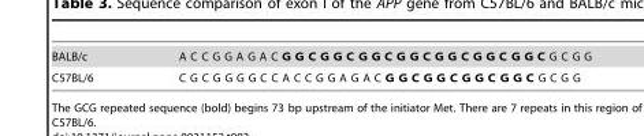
<table><tbody><tr><td>BALB/c</td><td>A C C G G A G A C G G C G G C G G C G G C G G C G G C G G C G C G G</td></tr><tr><td>C57BL/6</td><td>C G C G G G G C C A C C G G A G A C G G C G G C G G C G G C G C G G</td></tr></tbody></table>